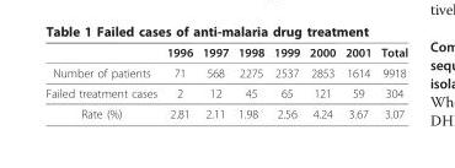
<table><thead><tr><td></td><td>1996</td><td>1997</td><td>1998</td><td>1999</td><td>2000</td><td>2001</td><td>Total</td></tr></thead><tbody><tr><td>Number of patients</td><td>71</td><td>568</td><td>2275</td><td>2537</td><td>2853</td><td>1614</td><td>9918</td></tr><tr><td>Failed treatment cases</td><td>2</td><td>12</td><td>45</td><td>65</td><td>121</td><td>59</td><td>304</td></tr><tr><td>Rate (%)</td><td>2.81</td><td>2.11</td><td>1.98</td><td>2.56</td><td>4.24</td><td>3.67</td><td>3.07</td></tr></tbody></table>